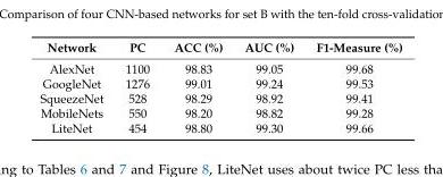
<table><thead><tr><td>Network</td><td>PC</td><td>ACC (%)</td><td>AUC (%)</td><td>F1-Measure (%)</td></tr></thead><tbody><tr><td>AlexNet</td><td>1100</td><td>98.83</td><td>99.05</td><td>99.68</td></tr><tr><td>GoogleNet</td><td>1276</td><td>99.01</td><td>99.24</td><td>99.53</td></tr><tr><td>SqueezeNet</td><td>528</td><td>98.29</td><td>98.92</td><td>99.41</td></tr><tr><td>MobileNets</td><td>550</td><td>98.20</td><td>98.82</td><td>99.28</td></tr><tr><td>LiteNet</td><td>454</td><td>98.80</td><td>99.30</td><td>99.66</td></tr></tbody></table>